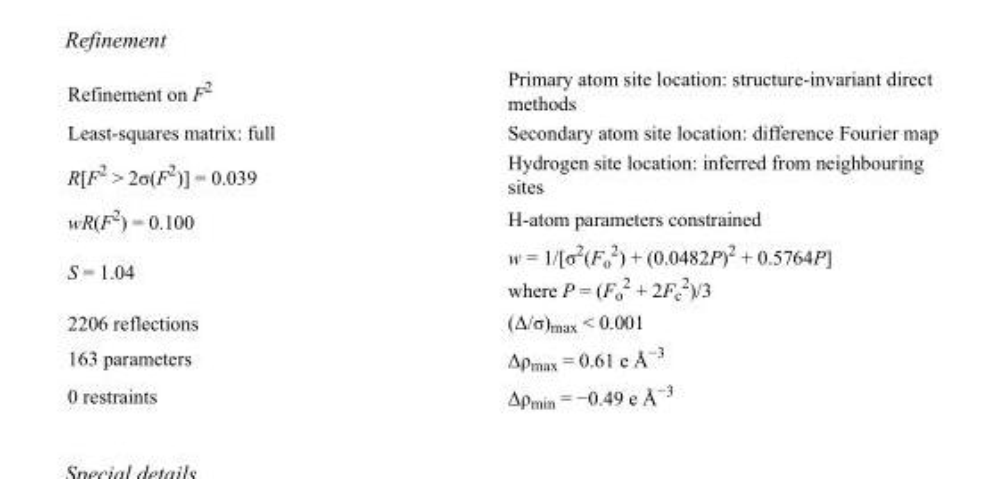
<table><tbody><tr><td>Refinement on F<sup>2</sup></td><td>Primary atom site location: structure-invariant direct methods</td></tr><tr><td>Least-squares matrix: full</td><td>Secondary atom site location: difference Fourier map</td></tr><tr><td>R[F<sup>2</sup> &gt; 2σ(F<sup>2</sup>)] = 0.039</td><td>Hydrogen site location: inferred from neighbouring sites</td></tr><tr><td>wR(F<sup>2</sup>) = 0.100</td><td>H-atom parameters constrained</td></tr><tr><td>S = 1.04</td><td>w = 1/[σ<sup>2</sup>(F<sub>o</sub> <sup>2</sup>) + (0.0482P)<sup>2</sup> + 0.5764P] where P = (F<sub>o</sub> <sup>2</sup> + 2F<sub>c</sub> <sup>2</sup>)/3</td></tr><tr><td>2206 reflections</td><td>(Δ/σ)<sub>max</sub> &lt; 0.001</td></tr><tr><td>163 parameters</td><td>Δρ<sub>max</sub> = 0.61 e Å<sup>−3</sup></td></tr><tr><td>0 restraints</td><td>Δρ<sub>min</sub> = −0.49 e Å<sup>−3</sup></td></tr></tbody></table>